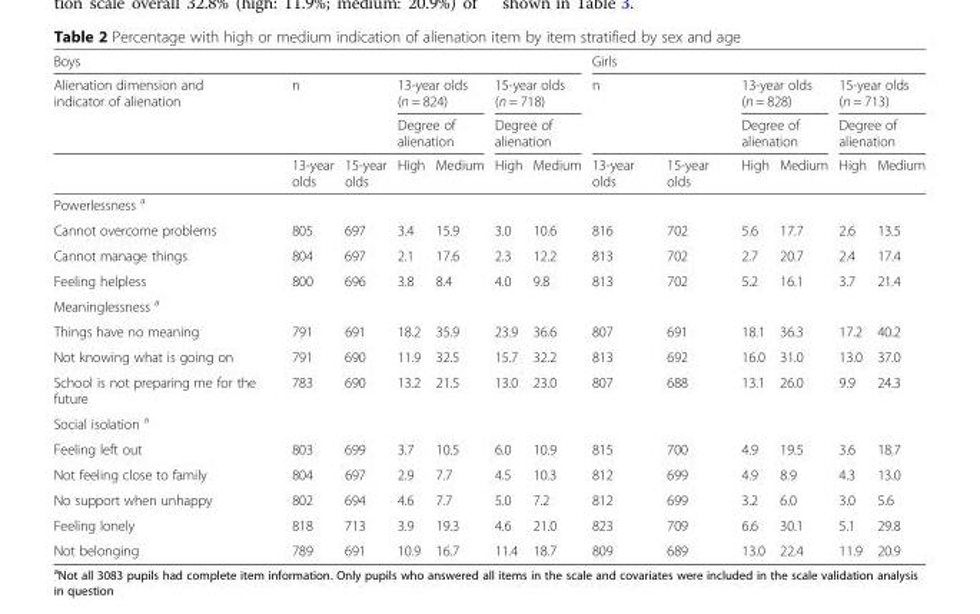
<table><thead><tr><td colspan="7">Boys</td><td colspan="6">Girls</td></tr><tr><td rowspan="3">Alienation dimension and indicator of alienation</td><td rowspan="2" colspan="2">n</td><td rowspan="2" colspan="2">13-year olds (n = 824) Degree of alienation</td><td rowspan="2" colspan="2">15-year olds (n = 718) Degree of alienation</td><td rowspan="2" colspan="2">n</td><td rowspan="2" colspan="2">13-year olds (n = 828) Degree of alienation</td><td rowspan="2" colspan="2">15-year olds (n = 713) Degree of alienation</td></tr><tr></tr><tr><td>13-year olds</td><td>15-year olds</td><td>High</td><td>Medium</td><td>High</td><td>Medium</td><td>13-year olds</td><td>15-year olds</td><td>High</td><td>Medium</td><td>High</td><td>Medium</td></tr></thead><tbody><tr><td colspan="13">Powerlessness <sup>a</sup></td></tr><tr><td>Cannot overcome problems</td><td>805</td><td>697</td><td>3.4</td><td>15.9</td><td>3.0</td><td>10.6</td><td>816</td><td>702</td><td>5.6</td><td>17.7</td><td>2.6</td><td>13.5</td></tr><tr><td>Cannot manage things</td><td>804</td><td>697</td><td>2.1</td><td>17.6</td><td>2.3</td><td>12.2</td><td>813</td><td>702</td><td>2.7</td><td>20.7</td><td>2.4</td><td>17.4</td></tr><tr><td>Feeling helpless</td><td>800</td><td>696</td><td>3.8</td><td>8.4</td><td>4.0</td><td>9.8</td><td>813</td><td>702</td><td>5.2</td><td>16.1</td><td>3.7</td><td>21.4</td></tr><tr><td colspan="13">Meaninglessness <sup>a</sup></td></tr><tr><td>Things have no meaning</td><td>791</td><td>691</td><td>18.2</td><td>35.9</td><td>23.9</td><td>36.6</td><td>807</td><td>691</td><td>18.1</td><td>36.3</td><td>17.2</td><td>40.2</td></tr><tr><td>Not knowing what is going on</td><td>791</td><td>690</td><td>11.9</td><td>32.5</td><td>15.7</td><td>32.2</td><td>813</td><td>692</td><td>16.0</td><td>31.0</td><td>13.0</td><td>37.0</td></tr><tr><td>School is not preparing me for the future</td><td>783</td><td>690</td><td>13.2</td><td>21.5</td><td>13.0</td><td>23.0</td><td>807</td><td>688</td><td>13.1</td><td>26.0</td><td>9.9</td><td>24.3</td></tr><tr><td colspan="13">Social isolation <sup>a</sup></td></tr><tr><td>Feeling left out</td><td>803</td><td>699</td><td>3.7</td><td>10.5</td><td>6.0</td><td>10.9</td><td>815</td><td>700</td><td>4.9</td><td>19.5</td><td>3.6</td><td>18.7</td></tr><tr><td>Not feeling close to family</td><td>804</td><td>697</td><td>2.9</td><td>7.7</td><td>4.5</td><td>10.3</td><td>812</td><td>699</td><td>4.9</td><td>8.9</td><td>4.3</td><td>13.0</td></tr><tr><td>No support when unhappy</td><td>802</td><td>694</td><td>4.6</td><td>7.7</td><td>5.0</td><td>7.2</td><td>812</td><td>699</td><td>3.2</td><td>6.0</td><td>3.0</td><td>5.6</td></tr><tr><td>Feeling lonely</td><td>818</td><td>713</td><td>3.9</td><td>19.3</td><td>4.6</td><td>21.0</td><td>823</td><td>709</td><td>6.6</td><td>30.1</td><td>5.1</td><td>29.8</td></tr><tr><td>Not belonging</td><td>789</td><td>691</td><td>10.9</td><td>16.7</td><td>11.4</td><td>18.7</td><td>809</td><td>689</td><td>13.0</td><td>22.4</td><td>11.9</td><td>20.9</td></tr></tbody></table>